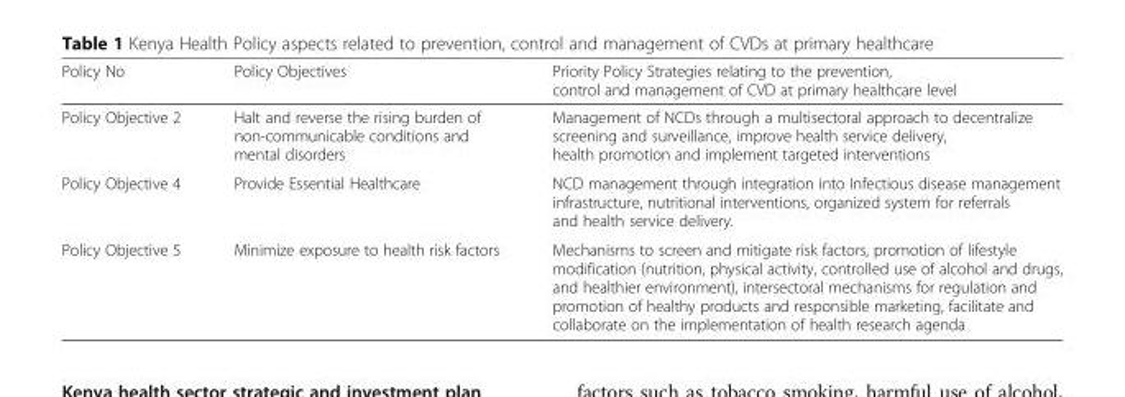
<table><thead><tr><td>Policy No</td><td>Policy Objectives</td><td>Priority Policy Strategies relating to the prevention, control and management of CVD at primary healthcare level</td></tr></thead><tbody><tr><td>Policy Objective 2</td><td>Halt and reverse the rising burden of non-communicable conditions and mental disorders</td><td>Management of NCDs through a multisectoral approach to decentralize screening and surveillance, improve health service delivery, health promotion and implement targeted interventions</td></tr><tr><td>Policy Objective 4</td><td>Provide Essential Healthcare</td><td>NCD management through integration into Infectious disease management infrastructure, nutritional interventions, organized system for referrals and health service delivery.</td></tr><tr><td>Policy Objective 5</td><td>Minimize exposure to health risk factors</td><td>Mechanisms to screen and mitigate risk factors, promotion of lifestyle modification (nutrition, physical activity, controlled use of alcohol and drugs, and healthier environment), intersectoral mechanisms for regulation and promotion of healthy products and responsible marketing, facilitate and collaborate on the implementation of health research agenda</td></tr></tbody></table>